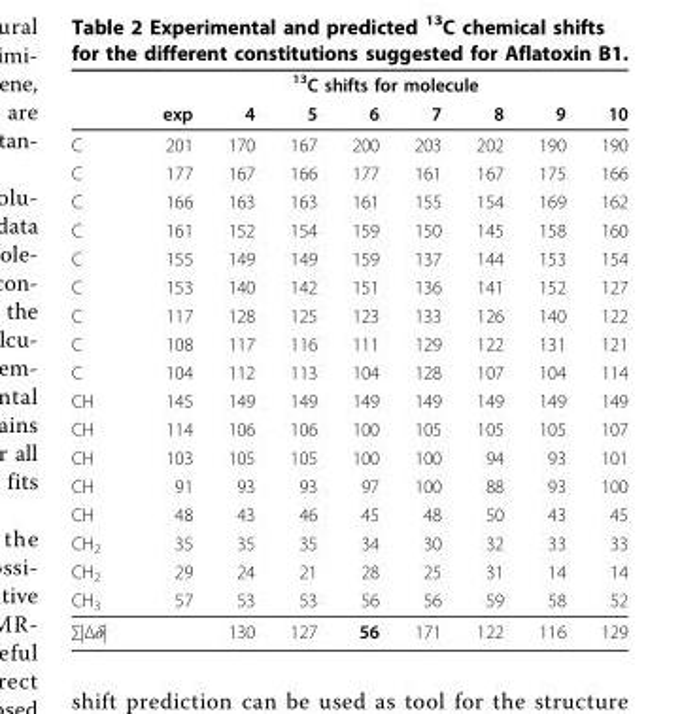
<table><thead><tr><td rowspan="2"></td><td colspan="8"><sup>13</sup>C shifts for molecule</td></tr><tr><td>exp</td><td>4</td><td>5</td><td>6</td><td>7</td><td>8</td><td>9</td><td>10</td></tr></thead><tbody><tr><td>C</td><td>201</td><td>170</td><td>167</td><td>200</td><td>203</td><td>202</td><td>190</td><td>190</td></tr><tr><td>C</td><td>177</td><td>167</td><td>166</td><td>177</td><td>161</td><td>167</td><td>175</td><td>166</td></tr><tr><td>C</td><td>166</td><td>163</td><td>163</td><td>161</td><td>155</td><td>154</td><td>169</td><td>162</td></tr><tr><td>C</td><td>161</td><td>152</td><td>154</td><td>159</td><td>150</td><td>145</td><td>158</td><td>160</td></tr><tr><td>C</td><td>155</td><td>149</td><td>149</td><td>159</td><td>137</td><td>144</td><td>153</td><td>154</td></tr><tr><td>C</td><td>153</td><td>140</td><td>142</td><td>151</td><td>136</td><td>141</td><td>152</td><td>127</td></tr><tr><td>C</td><td>117</td><td>128</td><td>125</td><td>123</td><td>133</td><td>126</td><td>140</td><td>122</td></tr><tr><td>C</td><td>108</td><td>117</td><td>116</td><td>111</td><td>129</td><td>122</td><td>131</td><td>121</td></tr><tr><td>C</td><td>104</td><td>112</td><td>113</td><td>104</td><td>128</td><td>107</td><td>104</td><td>114</td></tr><tr><td>CH</td><td>145</td><td>149</td><td>149</td><td>149</td><td>149</td><td>149</td><td>149</td><td>149</td></tr><tr><td>CH</td><td>114</td><td>106</td><td>106</td><td>100</td><td>105</td><td>105</td><td>105</td><td>107</td></tr><tr><td>CH</td><td>103</td><td>105</td><td>105</td><td>100</td><td>100</td><td>94</td><td>93</td><td>101</td></tr><tr><td>CH</td><td>91</td><td>93</td><td>93</td><td>97</td><td>100</td><td>88</td><td>93</td><td>100</td></tr><tr><td>CH</td><td>48</td><td>43</td><td>46</td><td>45</td><td>48</td><td>50</td><td>43</td><td>45</td></tr><tr><td>CH<sub>2</sub></td><td>35</td><td>35</td><td>35</td><td>34</td><td>30</td><td>32</td><td>33</td><td>33</td></tr><tr><td>CH<sub>2</sub></td><td>29</td><td>24</td><td>21</td><td>28</td><td>25</td><td>31</td><td>14</td><td>14</td></tr><tr><td>CH<sub>3</sub></td><td>57</td><td>53</td><td>53</td><td>56</td><td>56</td><td>59</td><td>58</td><td>52</td></tr><tr><td>∑|Δδ|</td><td></td><td>130</td><td>127</td><td>56</td><td>171</td><td>122</td><td>116</td><td>129</td></tr></tbody></table>